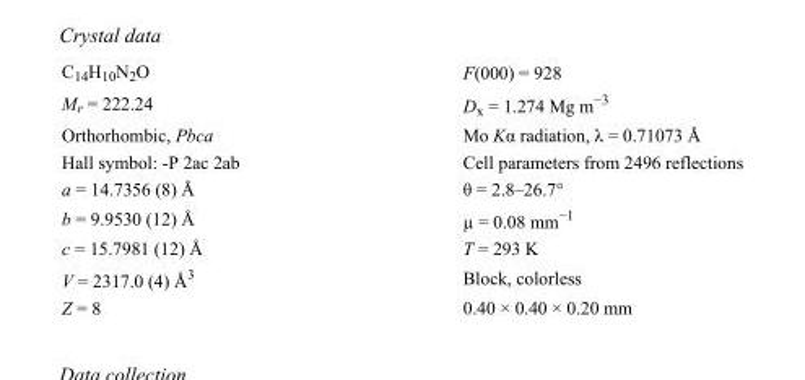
<table><tbody><tr><td>C<sub>14</sub>H<sub>10</sub>N<sub>2</sub>O</td><td>F(000) = 928</td></tr><tr><td>M<sub>r</sub> = 222.24</td><td>D<sub>x</sub> = 1.274 Mg m<sup>−3</sup></td></tr><tr><td>Orthorhombic, Pbca</td><td>Mo Kα radiation, λ = 0.71073 Å</td></tr><tr><td>Hall symbol: -P 2ac 2ab</td><td>Cell parameters from 2496 reflections</td></tr><tr><td>a = 14.7356 (8) Å</td><td>θ = 2.8–26.7°</td></tr><tr><td>b = 9.9530 (12) Å</td><td>µ = 0.08 mm<sup>−1</sup></td></tr><tr><td>c = 15.7981 (12) Å</td><td>T = 293 K</td></tr><tr><td>V = 2317.0 (4) Å<sup>3</sup></td><td>Block, colorless</td></tr><tr><td>Z = 8</td><td>0.40 × 0.40 × 0.20 mm</td></tr></tbody></table>